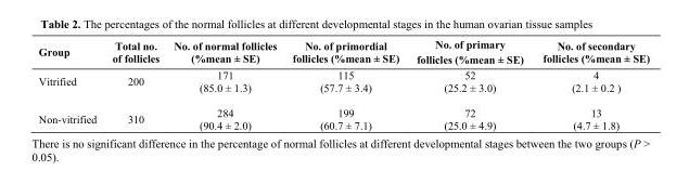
<table><thead><tr><td>Group</td><td>Total no. of follicles</td><td>No. of normal follicles (%mean ± SE)</td><td>No. of primordial follicles (%mean ± SE)</td><td>No. of primary follicles (%mean ± SE)</td><td>No. of secondary follicles (%mean ± SE)</td></tr></thead><tbody><tr><td>Vitrified</td><td>200</td><td>171 (85.0 ± 1.3)</td><td>115 (57.7 ± 3.4)</td><td>52 (25.2 ± 3.0)</td><td>4 (2.1 ± 0.2 )</td></tr><tr><td>Non-vitrified</td><td>310</td><td>284 (90.4 ± 2.0)</td><td>199 (60.7 ± 7.1)</td><td>72 (25.0 ± 4.9)</td><td>13 (4.7 ± 1.8)</td></tr></tbody></table>